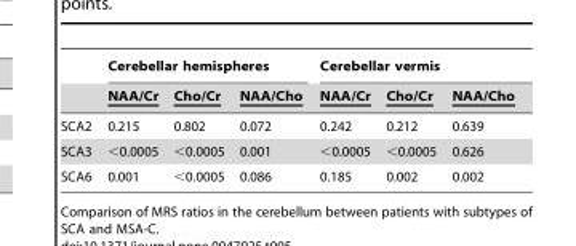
<table><thead><tr><td rowspan="2"></td><td colspan="3">Cerebellar hemispheres</td><td colspan="3">Cerebellar vermis</td></tr><tr><td>NAA/Cr</td><td>Cho/Cr</td><td>NAA/Cho</td><td>NAA/Cr</td><td>Cho/Cr</td><td>NAA/Cho</td></tr></thead><tbody><tr><td>SCA2</td><td>0.215</td><td>0.802</td><td>0.072</td><td>0.242</td><td>0.212</td><td>0.639</td></tr><tr><td>SCA3</td><td>&lt;0.0005</td><td>&lt;0.0005</td><td>0.001</td><td>&lt;0.0005</td><td>&lt;0.0005</td><td>0.626</td></tr><tr><td>SCA6</td><td>0.001</td><td>&lt;0.0005</td><td>0.086</td><td>0.185</td><td>0.002</td><td>0.002</td></tr></tbody></table>